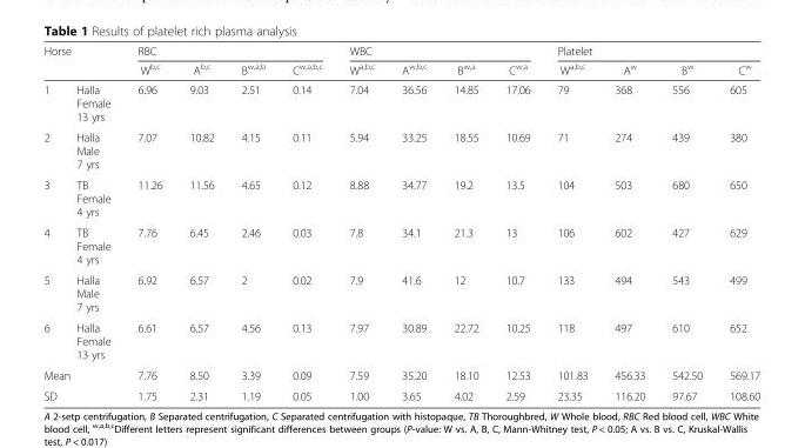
<table><thead><tr><td rowspan="2" colspan="2">Horse</td><td colspan="4">RBC</td><td colspan="4">WBC</td><td colspan="4">Platelet</td></tr><tr><td rowspan="2">W<sup>b,c</sup> 6.96</td><td rowspan="2">A<sup>b,c</sup> 9.03</td><td rowspan="2">B<sup>w,a,b</sup> 2.51</td><td rowspan="2">C<sup>w,a,b,c</sup> 0.14</td><td rowspan="2">W<sup>a,b,c</sup> 7.04</td><td rowspan="2">A<sup>w,b,c</sup> 36.56</td><td rowspan="2">B<sup>w,a</sup> 14.85</td><td rowspan="2">C<sup>w,a</sup> 17.06</td><td rowspan="2">W<sup>a,b,c</sup> 79</td><td rowspan="2">A<sup>w</sup> 368</td><td rowspan="2">B<sup>w</sup> 556</td><td rowspan="2">C<sup>w</sup> 605</td></tr><tr><td>1</td><td>Halla Female 13 yrs</td></tr></thead><tbody><tr><td>2</td><td>Halla Male 7 yrs</td><td>7.07</td><td>10.82</td><td>4.15</td><td>0.11</td><td>5.94</td><td>33.25</td><td>18.55</td><td>10.69</td><td>71</td><td>274</td><td>439</td><td>380</td></tr><tr><td>3</td><td>TB Female 4 yrs</td><td>11.26</td><td>11.56</td><td>4.65</td><td>0.12</td><td>8.88</td><td>34.77</td><td>19.2</td><td>13.5</td><td>104</td><td>503</td><td>680</td><td>650</td></tr><tr><td>4</td><td>TB Female 4 yrs</td><td>7.76</td><td>6.45</td><td>2.46</td><td>0.03</td><td>7.8</td><td>34.1</td><td>21.3</td><td>13</td><td>106</td><td>602</td><td>427</td><td>629</td></tr><tr><td>5</td><td>Halla Male 7 yrs</td><td>6.92</td><td>6.57</td><td>2</td><td>0.02</td><td>7.9</td><td>41.6</td><td>12</td><td>10.7</td><td>133</td><td>494</td><td>543</td><td>499</td></tr><tr><td>6</td><td>Halla Female 13 yrs</td><td>6.61</td><td>6.57</td><td>4.56</td><td>0.13</td><td>7.97</td><td>30.89</td><td>22.72</td><td>10.25</td><td>118</td><td>497</td><td>610</td><td>652</td></tr><tr><td colspan="2">Mean</td><td>7.76</td><td>8.50</td><td>3.39</td><td>0.09</td><td>7.59</td><td>35.20</td><td>18.10</td><td>12.53</td><td>101.83</td><td>456.33</td><td>542.50</td><td>569.17</td></tr><tr><td colspan="2">SD</td><td>1.75</td><td>2.31</td><td>1.19</td><td>0.05</td><td>1.00</td><td>3.65</td><td>4.02</td><td>2.59</td><td>23.35</td><td>116.20</td><td>97.67</td><td>108.60</td></tr></tbody></table>